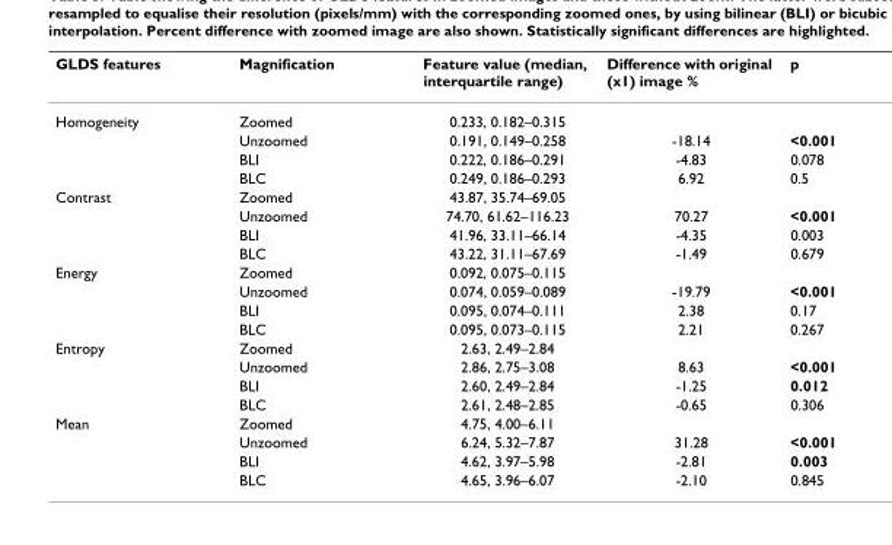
<table><thead><tr><td>GLDS features</td><td>Magnification</td><td>Feature value (median, interquartile range)</td><td>Difference with original (x1) image %</td><td>p</td></tr></thead><tbody><tr><td rowspan="4">Homogeneity</td><td>Zoomed</td><td>0.233, 0.182–0.315</td><td></td><td></td></tr><tr><td>Unzoomed</td><td>0.191, 0.149–0.258</td><td>-18.14</td><td>&lt;0.001</td></tr><tr><td>BLI</td><td>0.222, 0.186–0.291</td><td>-4.83</td><td>0.078</td></tr><tr><td>BLC</td><td>0.249, 0.186–0.293</td><td>6.92</td><td>0.5</td></tr><tr><td rowspan="4">Contrast</td><td>Zoomed</td><td>43.87, 35.74–69.05</td><td></td><td></td></tr><tr><td>Unzoomed</td><td>74.70, 61.62–116.23</td><td>70.27</td><td>&lt;0.001</td></tr><tr><td>BLI</td><td>41.96, 33.11–66.14</td><td>-4.35</td><td>0.003</td></tr><tr><td>BLC</td><td>43.22, 31.11–67.69</td><td>-1.49</td><td>0.679</td></tr><tr><td rowspan="4">Energy</td><td>Zoomed</td><td>0.092, 0.075–0.115</td><td></td><td></td></tr><tr><td>Unzoomed</td><td>0.074, 0.059–0.089</td><td>-19.79</td><td>&lt;0.001</td></tr><tr><td>BLI</td><td>0.095, 0.074–0.111</td><td>2.38</td><td>0.17</td></tr><tr><td>BLC</td><td>0.095, 0.073–0.115</td><td>2.21</td><td>0.267</td></tr><tr><td rowspan="4">Entropy</td><td>Zoomed</td><td>2.63, 2.49–2.84</td><td></td><td></td></tr><tr><td>Unzoomed</td><td>2.86, 2.75–3.08</td><td>8.63</td><td>&lt;0.001</td></tr><tr><td>BLI</td><td>2.60, 2.49–2.84</td><td>-1.25</td><td>0.012</td></tr><tr><td>BLC</td><td>2.61, 2.48–2.85</td><td>-0.65</td><td>0.306</td></tr><tr><td rowspan="4">Mean</td><td>Zoomed</td><td>4.75, 4.00–6.11</td><td></td><td></td></tr><tr><td>Unzoomed</td><td>6.24, 5.32–7.87</td><td>31.28</td><td>&lt;0.001</td></tr><tr><td>BLI</td><td>4.62, 3.97–5.98</td><td>-2.81</td><td>0.003</td></tr><tr><td>BLC</td><td>4.65, 3.96–6.07</td><td>-2.10</td><td>0.845</td></tr></tbody></table>